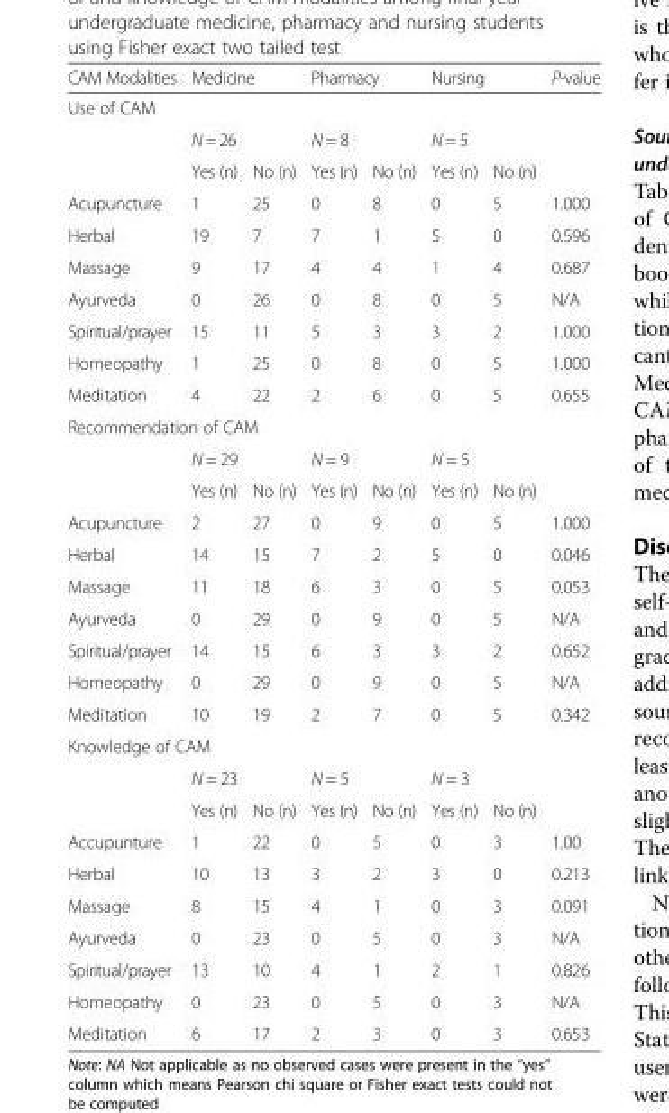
<table><thead><tr><td>CAM Modalities</td><td colspan="2">Medicine</td><td colspan="2">Pharmacy</td><td colspan="2">Nursing</td><td>P-value</td></tr><tr><td colspan="8">Use of CAM</td></tr><tr><td rowspan="2"></td><td colspan="2">N = 26</td><td colspan="2">N = 8</td><td colspan="2">N = 5</td><td rowspan="2"></td></tr><tr><td>Yes (n)</td><td>No (n)</td><td>Yes (n)</td><td>No (n)</td><td>Yes (n)</td><td>No (n)</td></tr></thead><tbody><tr><td>Acupuncture</td><td>1</td><td>25</td><td>0</td><td>8</td><td>0</td><td>5</td><td>1.000</td></tr><tr><td>Herbal</td><td>19</td><td>7</td><td>7</td><td>1</td><td>5</td><td>0</td><td>0.596</td></tr><tr><td>Massage</td><td>9</td><td>17</td><td>4</td><td>4</td><td>1</td><td>4</td><td>0.687</td></tr><tr><td>Ayurveda</td><td>0</td><td>26</td><td>0</td><td>8</td><td>0</td><td>5</td><td>N/A</td></tr><tr><td>Spiritual/prayer</td><td>15</td><td>11</td><td>5</td><td>3</td><td>3</td><td>2</td><td>1.000</td></tr><tr><td>Homeopathy</td><td>1</td><td>25</td><td>0</td><td>8</td><td>0</td><td>5</td><td>1.000</td></tr><tr><td>Meditation</td><td>4</td><td>22</td><td>2</td><td>6</td><td>0</td><td>5</td><td>0.655</td></tr><tr><td colspan="8">Recommendation of CAM</td></tr><tr><td></td><td colspan="2">N = 29</td><td colspan="2">N = 9</td><td colspan="2">N = 5</td><td></td></tr><tr><td></td><td>Yes (n)</td><td>No (n)</td><td>Yes (n)</td><td>No (n)</td><td>Yes (n)</td><td>No (n)</td><td></td></tr><tr><td>Acupuncture</td><td>2</td><td>27</td><td>0</td><td>9</td><td>0</td><td>5</td><td>1.000</td></tr><tr><td>Herbal</td><td>14</td><td>15</td><td>7</td><td>2</td><td>5</td><td>0</td><td>0.046</td></tr><tr><td>Massage</td><td>11</td><td>18</td><td>6</td><td>3</td><td>0</td><td>5</td><td>0.053</td></tr><tr><td>Ayurveda</td><td>0</td><td>29</td><td>0</td><td>9</td><td>0</td><td>5</td><td>N/A</td></tr><tr><td>Spiritual/prayer</td><td>14</td><td>15</td><td>6</td><td>3</td><td>3</td><td>2</td><td>0.652</td></tr><tr><td>Homeopathy</td><td>0</td><td>29</td><td>0</td><td>9</td><td>0</td><td>5</td><td>N/A</td></tr><tr><td>Meditation</td><td>10</td><td>19</td><td>2</td><td>7</td><td>0</td><td>5</td><td>0.342</td></tr><tr><td colspan="8">Knowledge of CAM</td></tr><tr><td></td><td colspan="2">N = 23</td><td colspan="2">N = 5</td><td colspan="2">N = 3</td><td></td></tr><tr><td></td><td>Yes (n)</td><td>No (n)</td><td>Yes (n)</td><td>No (n)</td><td>Yes (n)</td><td>No (n)</td><td></td></tr><tr><td>Accupunture</td><td>1</td><td>22</td><td>0</td><td>5</td><td>0</td><td>3</td><td>1.00</td></tr><tr><td>Herbal</td><td>10</td><td>13</td><td>3</td><td>2</td><td>3</td><td>0</td><td>0.213</td></tr><tr><td>Massage</td><td>8</td><td>15</td><td>4</td><td>1</td><td>0</td><td>3</td><td>0.091</td></tr><tr><td>Ayurveda</td><td>0</td><td>23</td><td>0</td><td>5</td><td>0</td><td>3</td><td>N/A</td></tr><tr><td>Spiritual/prayer</td><td>13</td><td>10</td><td>4</td><td>1</td><td>2</td><td>1</td><td>0.826</td></tr><tr><td>Homeopathy</td><td>0</td><td>23</td><td>0</td><td>5</td><td>0</td><td>3</td><td>N/A</td></tr><tr><td>Meditation</td><td>6</td><td>17</td><td>2</td><td>3</td><td>0</td><td>3</td><td>0.653</td></tr></tbody></table>